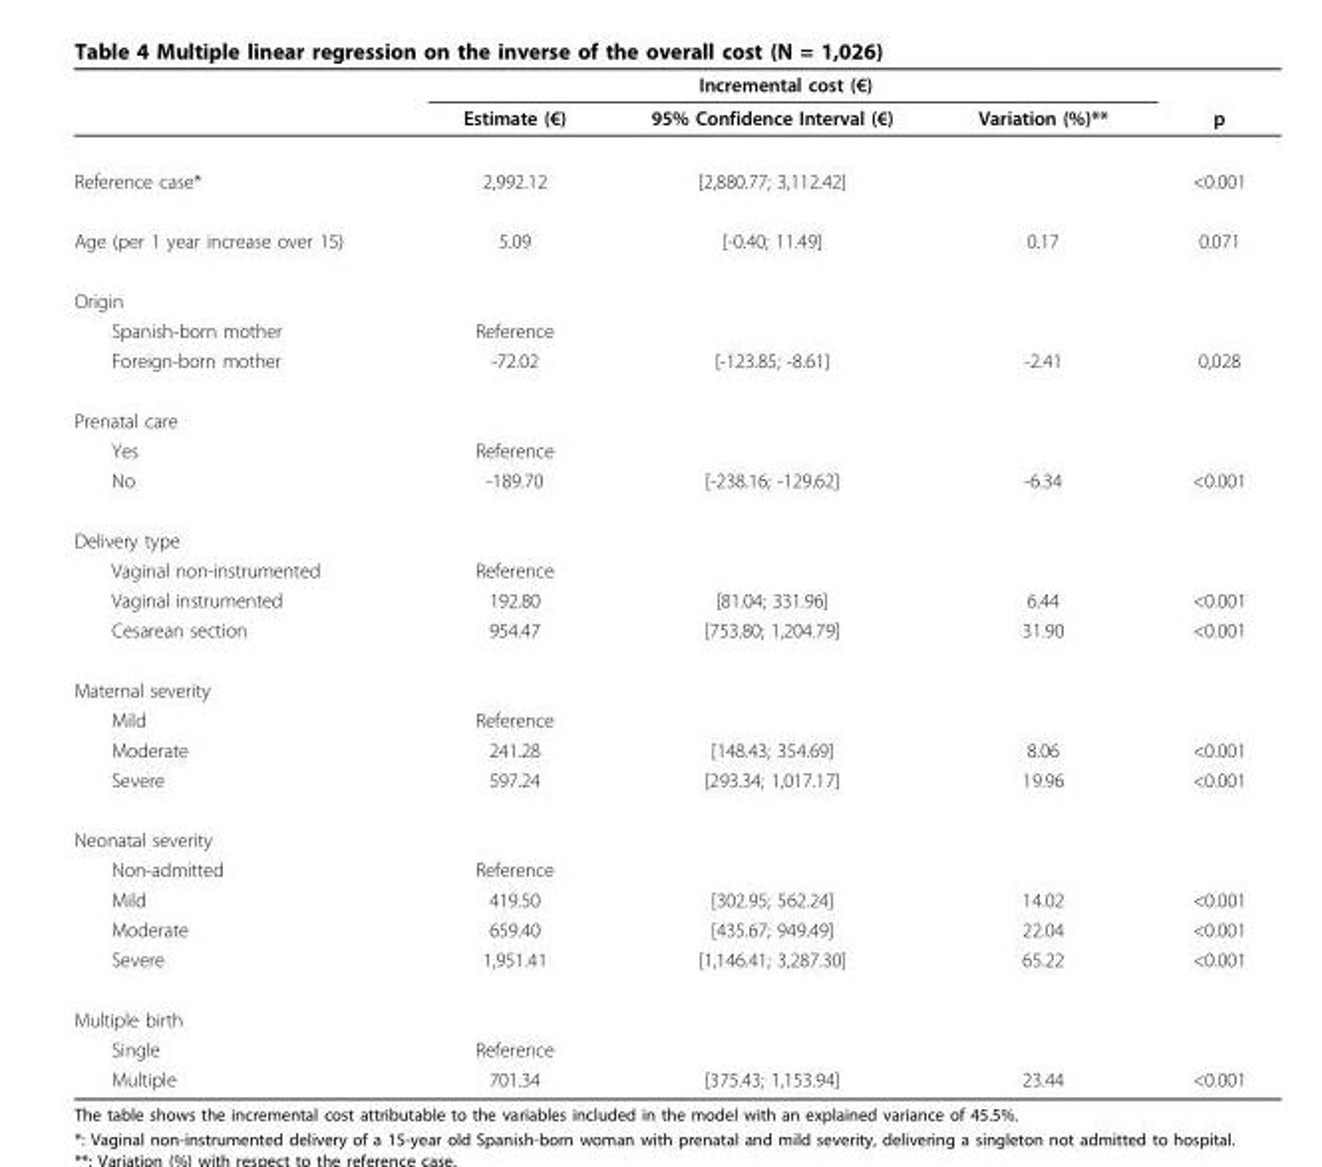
<table><thead><tr><td rowspan="2"></td><td colspan="3">Incremental cost (€)</td><td rowspan="2">p</td></tr><tr><td>Estimate (€)</td><td>95% Confidence Interval (€)</td><td>Variation (%)**</td></tr></thead><tbody><tr><td>Reference case*</td><td>2,992.12</td><td>[2,880.77; 3,112.42]</td><td></td><td>&lt;0.001</td></tr><tr><td>Age (per 1 year increase over 15)</td><td>5.09</td><td>[-0.40; 11.49]</td><td>0.17</td><td>0.071</td></tr><tr><td colspan="5">Origin</td></tr><tr><td>Spanish-born mother</td><td>Reference</td><td></td><td></td><td></td></tr><tr><td>Foreign-born mother</td><td>-72.02</td><td>[-123.85; -8.61]</td><td>-2.41</td><td>0,028</td></tr><tr><td colspan="5">Prenatal care</td></tr><tr><td>Yes</td><td>Reference</td><td></td><td></td><td></td></tr><tr><td>No</td><td>-189.70</td><td>[-238.16; -129.62]</td><td>-6.34</td><td>&lt;0.001</td></tr><tr><td colspan="5">Delivery type</td></tr><tr><td>Vaginal non-instrumented</td><td>Reference</td><td></td><td></td><td></td></tr><tr><td>Vaginal instrumented</td><td>192.80</td><td>[81.04; 331.96]</td><td>6.44</td><td>&lt;0.001</td></tr><tr><td>Cesarean section</td><td>954.47</td><td>[753.80; 1,204.79]</td><td>31.90</td><td>&lt;0.001</td></tr><tr><td colspan="5">Maternal severity</td></tr><tr><td>Mild</td><td>Reference</td><td></td><td></td><td></td></tr><tr><td>Moderate</td><td>241.28</td><td>[148.43; 354.69]</td><td>8.06</td><td>&lt;0.001</td></tr><tr><td>Severe</td><td>597.24</td><td>[293.34; 1,017.17]</td><td>19.96</td><td>&lt;0.001</td></tr><tr><td colspan="5">Neonatal severity</td></tr><tr><td>Non-admitted</td><td>Reference</td><td></td><td></td><td></td></tr><tr><td>Mild</td><td>419.50</td><td>[302.95; 562.24]</td><td>14.02</td><td>&lt;0.001</td></tr><tr><td>Moderate</td><td>659.40</td><td>[435.67; 949.49]</td><td>22.04</td><td>&lt;0.001</td></tr><tr><td>Severe</td><td>1,951.41</td><td>[1,146.41; 3,287.30]</td><td>65.22</td><td>&lt;0.001</td></tr><tr><td colspan="5">Multiple birth</td></tr><tr><td>Single</td><td>Reference</td><td></td><td></td><td></td></tr><tr><td>Multiple</td><td>701.34</td><td>[375.43; 1,153.94]</td><td>23.44</td><td>&lt;0.001</td></tr></tbody></table>